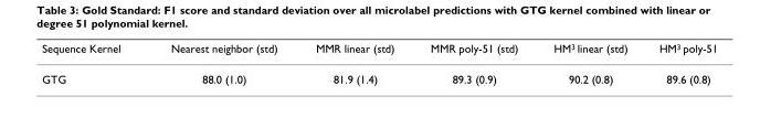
<table><thead><tr><td>Sequence Kernel</td><td>Nearest neighbor (std)</td><td>MMR linear (std)</td><td>MMR poly-51 (std)</td><td>HM<sup>3</sup> linear (std)</td><td>HM<sup>3</sup> poly-51</td></tr></thead><tbody><tr><td>GTG</td><td>88.0 (1.0)</td><td>81.9 (1.4)</td><td>89.3 (0.9)</td><td>90.2 (0.8)</td><td>89.6 (0.8)</td></tr></tbody></table>